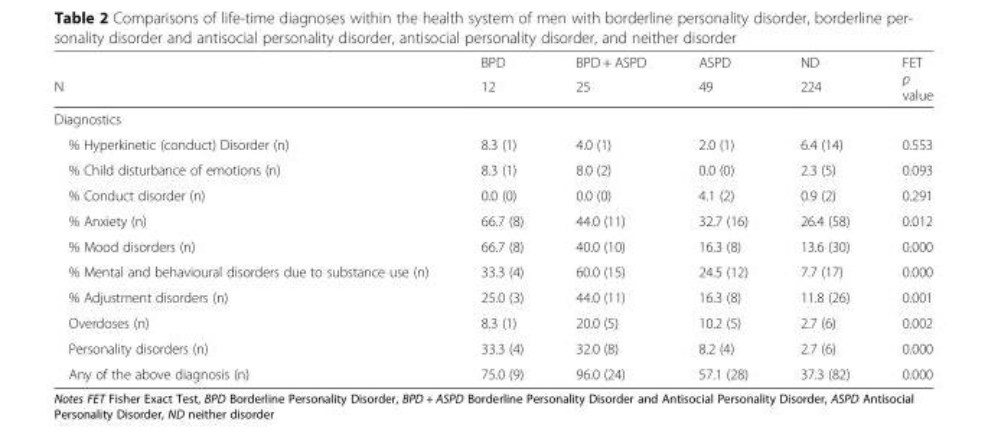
<table><thead><tr><td rowspan="2">N</td><td rowspan="2">BPD 12</td><td rowspan="2">BPD + ASPD 25</td><td rowspan="2">ASPD 49</td><td rowspan="2">ND 224</td><td rowspan="2">FET p value</td></tr><tr></tr></thead><tbody><tr><td colspan="6">Diagnostics</td></tr><tr><td>% Hyperkinetic (conduct) Disorder (n)</td><td>8.3 (1)</td><td>4.0 (1)</td><td>2.0 (1)</td><td>6.4 (14)</td><td>0.553</td></tr><tr><td>% Child disturbance of emotions (n)</td><td>8.3 (1)</td><td>8.0 (2)</td><td>0.0 (0)</td><td>2.3 (5)</td><td>0.093</td></tr><tr><td>% Conduct disorder (n)</td><td>0.0 (0)</td><td>0.0 (0)</td><td>4.1 (2)</td><td>0.9 (2)</td><td>0.291</td></tr><tr><td>% Anxiety (n)</td><td>66.7 (8)</td><td>44.0 (11)</td><td>32.7 (16)</td><td>26.4 (58)</td><td>0.012</td></tr><tr><td>% Mood disorders (n)</td><td>66.7 (8)</td><td>40.0 (10)</td><td>16.3 (8)</td><td>13.6 (30)</td><td>0.000</td></tr><tr><td>% Mental and behavioural disorders due to substance use (n)</td><td>33.3 (4)</td><td>60.0 (15)</td><td>24.5 (12)</td><td>7.7 (17)</td><td>0.000</td></tr><tr><td>% Adjustment disorders (n)</td><td>25.0 (3)</td><td>44.0 (11)</td><td>16.3 (8)</td><td>11.8 (26)</td><td>0.001</td></tr><tr><td>Overdoses (n)</td><td>8.3 (1)</td><td>20.0 (5)</td><td>10.2 (5)</td><td>2.7 (6)</td><td>0.002</td></tr><tr><td>Personality disorders (n)</td><td>33.3 (4)</td><td>32.0 (8)</td><td>8.2 (4)</td><td>2.7 (6)</td><td>0.000</td></tr><tr><td>Any of the above diagnosis (n)</td><td>75.0 (9)</td><td>96.0 (24)</td><td>57.1 (28)</td><td>37.3 (82)</td><td>0.000</td></tr></tbody></table>